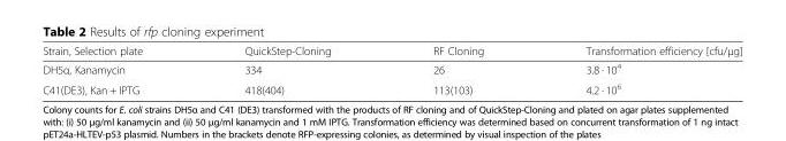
<table><thead><tr><td>Strain, Selection plate</td><td>QuickStep-Cloning</td><td>RF Cloning</td><td>Transformation efficiency [cfu/μg]</td></tr></thead><tbody><tr><td>DH5α, Kanamycin</td><td>334</td><td>26</td><td>3.8 · 10<sup>4</sup></td></tr><tr><td>C41(DE3), Kan + IPTG</td><td>418(404)</td><td>113(103)</td><td>4.2 · 10<sup>6</sup></td></tr></tbody></table>